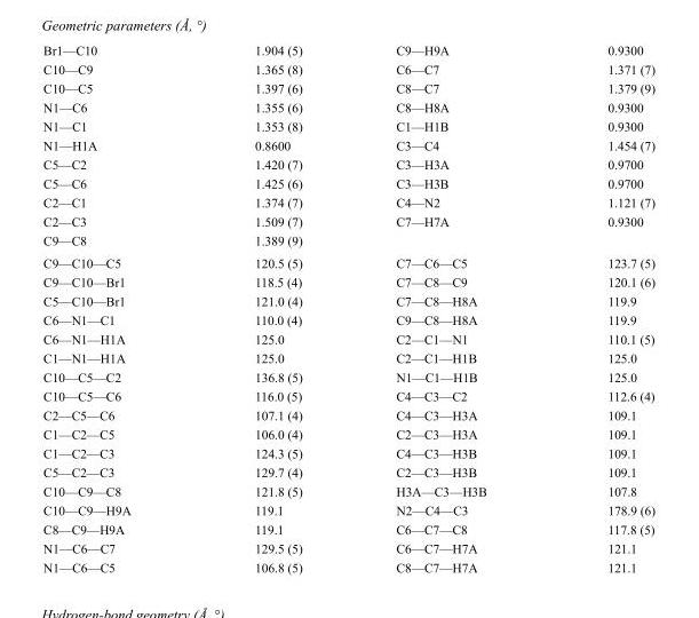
<table><tbody><tr><td>Br1—C10</td><td>1.904 (5)</td><td>C9—H9A</td><td>0.9300</td></tr><tr><td>C10—C9</td><td>1.365 (8)</td><td>C6—C7</td><td>1.371 (7)</td></tr><tr><td>C10—C5</td><td>1.397 (6)</td><td>C8—C7</td><td>1.379 (9)</td></tr><tr><td>N1—C6</td><td>1.355 (6)</td><td>C8—H8A</td><td>0.9300</td></tr><tr><td>N1—C1</td><td>1.353 (8)</td><td>C1—H1B</td><td>0.9300</td></tr><tr><td>N1—H1A</td><td>0.8600</td><td>C3—C4</td><td>1.454 (7)</td></tr><tr><td>C5—C2</td><td>1.420 (7)</td><td>C3—H3A</td><td>0.9700</td></tr><tr><td>C5—C6</td><td>1.425 (6)</td><td>C3—H3B</td><td>0.9700</td></tr><tr><td>C2—C1</td><td>1.374 (7)</td><td>C4—N2</td><td>1.121 (7)</td></tr><tr><td>C2—C3</td><td>1.509 (7)</td><td>C7—H7A</td><td>0.9300</td></tr><tr><td>C9—C8</td><td>1.389 (9)</td><td></td><td></td></tr><tr><td>C9—C10—C5</td><td>120.5 (5)</td><td>C7—C6—C5</td><td>123.7 (5)</td></tr><tr><td>C9—C10—Br1</td><td>118.5 (4)</td><td>C7—C8—C9</td><td>120.1 (6)</td></tr><tr><td>C5—C10—Br1</td><td>121.0 (4)</td><td>C7—C8—H8A</td><td>119.9</td></tr><tr><td>C6—N1—C1</td><td>110.0 (4)</td><td>C9—C8—H8A</td><td>119.9</td></tr><tr><td>C6—N1—H1A</td><td>125.0</td><td>C2—C1—N1</td><td>110.1 (5)</td></tr><tr><td>C1—N1—H1A</td><td>125.0</td><td>C2—C1—H1B</td><td>125.0</td></tr><tr><td>C10—C5—C2</td><td>136.8 (5)</td><td>N1—C1—H1B</td><td>125.0</td></tr><tr><td>C10—C5—C6</td><td>116.0 (5)</td><td>C4—C3—C2</td><td>112.6 (4)</td></tr><tr><td>C2—C5—C6</td><td>107.1 (4)</td><td>C4—C3—H3A</td><td>109.1</td></tr><tr><td>C1—C2—C5</td><td>106.0 (4)</td><td>C2—C3—H3A</td><td>109.1</td></tr><tr><td>C1—C2—C3</td><td>124.3 (5)</td><td>C4—C3—H3B</td><td>109.1</td></tr><tr><td>C5—C2—C3</td><td>129.7 (4)</td><td>C2—C3—H3B</td><td>109.1</td></tr><tr><td>C10—C9—C8</td><td>121.8 (5)</td><td>H3A—C3—H3B</td><td>107.8</td></tr><tr><td>C10—C9—H9A</td><td>119.1</td><td>N2—C4—C3</td><td>178.9 (6)</td></tr><tr><td>C8—C9—H9A</td><td>119.1</td><td>C6—C7—C8</td><td>117.8 (5)</td></tr><tr><td>N1—C6—C7</td><td>129.5 (5)</td><td>C6—C7—H7A</td><td>121.1</td></tr><tr><td>N1—C6—C5</td><td>106.8 (5)</td><td>C8—C7—H7A</td><td>121.1</td></tr></tbody></table>